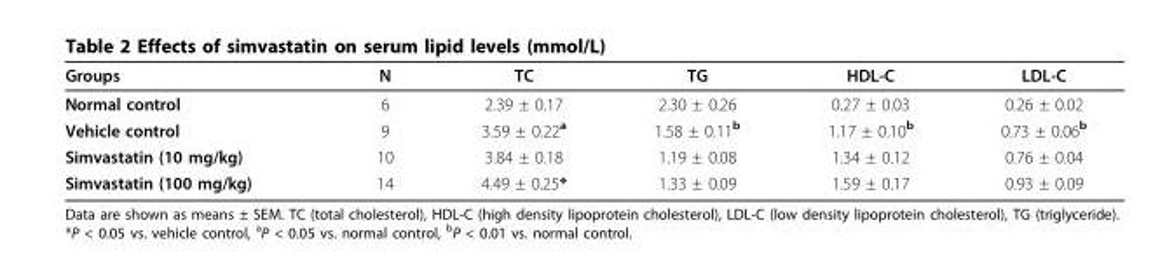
<table><thead><tr><td>Groups</td><td>N</td><td>TC</td><td>TG</td><td>HDL-C</td><td>LDL-C</td></tr></thead><tbody><tr><td>Normal control</td><td>6</td><td>2.39 ± 0.17</td><td>2.30 ± 0.26</td><td>0.27 ± 0.03</td><td>0.26 ± 0.02</td></tr><tr><td>Vehicle control</td><td>9</td><td>3.59 ± 0.22<sup>a</sup></td><td>1.58 ± 0.11<sup>b</sup></td><td>1.17 ± 0.10<sup>b</sup></td><td>0.73 ± 0.06<sup>b</sup></td></tr><tr><td>Simvastatin (10 mg/kg)</td><td>10</td><td>3.84 ± 0.18</td><td>1.19 ± 0.08</td><td>1.34 ± 0.12</td><td>0.76 ± 0.04</td></tr><tr><td>Simvastatin (100 mg/kg)</td><td>14</td><td>4.49 ± 0.25*</td><td>1.33 ± 0.09</td><td>1.59 ± 0.17</td><td>0.93 ± 0.09</td></tr></tbody></table>